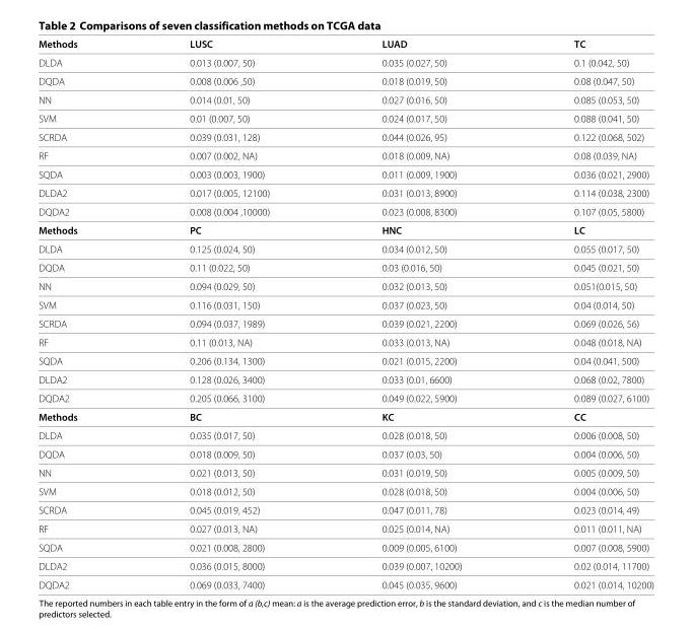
<table><thead><tr><td>Methods</td><td>LUSC</td><td>LUAD</td><td>TC</td></tr></thead><tbody><tr><td>DLDA</td><td>0.013 (0.007, 50)</td><td>0.035 (0.027, 50)</td><td>0.1 (0.042, 50)</td></tr><tr><td>DQDA</td><td>0.008 (0.006 ,50)</td><td>0.018 (0.019, 50)</td><td>0.08 (0.047, 50)</td></tr><tr><td>NN</td><td>0.014 (0.01, 50)</td><td>0.027 (0.016, 50)</td><td>0.085 (0.053, 50)</td></tr><tr><td>SVM</td><td>0.01 (0.007, 50)</td><td>0.024 (0.017, 50)</td><td>0.088 (0.041, 50)</td></tr><tr><td>SCRDA</td><td>0.039 (0.031, 128)</td><td>0.044 (0.026, 95)</td><td>0.122 (0.068, 502)</td></tr><tr><td>RF</td><td>0.007 (0.002, NA)</td><td>0.018 (0.009, NA)</td><td>0.08 (0.039, NA)</td></tr><tr><td>SQDA</td><td>0.003 (0.003, 1900)</td><td>0.011 (0.009, 1900)</td><td>0.036 (0.021, 2900)</td></tr><tr><td>DLDA2</td><td>0.017 (0.005, 12100)</td><td>0.031 (0.013, 8900)</td><td>0.114 (0.038, 2300)</td></tr><tr><td>DQDA2</td><td>0.008 (0.004 ,10000)</td><td>0.023 (0.008, 8300)</td><td>0.107 (0.05, 5800)</td></tr><tr><td>Methods</td><td>PC</td><td>HNC</td><td>LC</td></tr><tr><td>DLDA</td><td>0.125 (0.024, 50)</td><td>0.034 (0.012, 50)</td><td>0.055 (0.017, 50)</td></tr><tr><td>DQDA</td><td>0.11 (0.022, 50)</td><td>0.03 (0.016, 50)</td><td>0.045 (0.021, 50)</td></tr><tr><td>NN</td><td>0.094 (0.029, 50)</td><td>0.032 (0.013, 50)</td><td>0.051(0.015, 50)</td></tr><tr><td>SVM</td><td>0.116 (0.031, 150)</td><td>0.037 (0.023, 50)</td><td>0.04 (0.014, 50)</td></tr><tr><td>SCRDA</td><td>0.094 (0.037, 1989)</td><td>0.039 (0.021, 2200)</td><td>0.069 (0.026, 56)</td></tr><tr><td>RF</td><td>0.11 (0.013, NA)</td><td>0.033 (0.013, NA)</td><td>0.048 (0.018, NA)</td></tr><tr><td>SQDA</td><td>0.206 (0.134, 1300)</td><td>0.021 (0.015, 2200)</td><td>0.04 (0.041, 500)</td></tr><tr><td>DLDA2</td><td>0.128 (0.026, 3400)</td><td>0.033 (0.01, 6600)</td><td>0.068 (0.02, 7800)</td></tr><tr><td>DQDA2</td><td>0.205 (0.066, 3100)</td><td>0.049 (0.022, 5900)</td><td>0.089 (0.027, 6100)</td></tr><tr><td>Methods</td><td>BC</td><td>KC</td><td>CC</td></tr><tr><td>DLDA</td><td>0.035 (0.017, 50)</td><td>0.028 (0.018, 50)</td><td>0.006 (0.008, 50)</td></tr><tr><td>DQDA</td><td>0.018 (0.009, 50)</td><td>0.037 (0.03, 50)</td><td>0.004 (0.006, 50)</td></tr><tr><td>NN</td><td>0.021 (0.013, 50)</td><td>0.031 (0.019, 50)</td><td>0.005 (0.009, 50)</td></tr><tr><td>SVM</td><td>0.018 (0.012, 50)</td><td>0.028 (0.018, 50)</td><td>0.004 (0.006, 50)</td></tr><tr><td>SCRDA</td><td>0.045 (0.019, 452)</td><td>0.047 (0.011, 78)</td><td>0.023 (0.014, 49)</td></tr><tr><td>RF</td><td>0.027 (0.013, NA)</td><td>0.025 (0.014, NA)</td><td>0.011 (0.011, NA)</td></tr><tr><td>SQDA</td><td>0.021 (0.008, 2800)</td><td>0.009 (0.005, 6100)</td><td>0.007 (0.008, 5900)</td></tr><tr><td>DLDA2</td><td>0.036 (0.015, 8000)</td><td>0.039 (0.007, 10200)</td><td>0.02 (0.014, 11700)</td></tr><tr><td>DQDA2</td><td>0.069 (0.033, 7400)</td><td>0.045 (0.035, 9600)</td><td>0.021 (0.014, 10200)</td></tr></tbody></table>